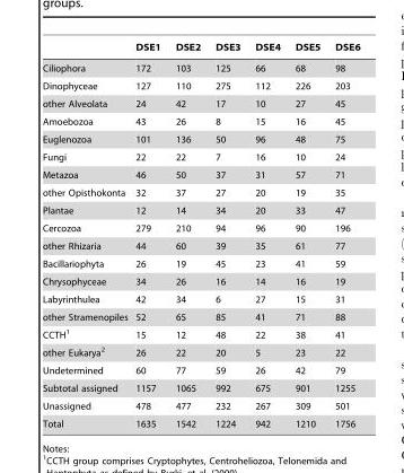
<table><thead><tr><td></td><td>DSE1</td><td>DSE2</td><td>DSE3</td><td>DSE4</td><td>DSE5</td><td>DSE6</td></tr></thead><tbody><tr><td>Ciliophora</td><td>172</td><td>103</td><td>125</td><td>66</td><td>68</td><td>98</td></tr><tr><td>Dinophyceae</td><td>127</td><td>110</td><td>275</td><td>112</td><td>226</td><td>203</td></tr><tr><td>other Alveolata</td><td>24</td><td>42</td><td>17</td><td>10</td><td>27</td><td>45</td></tr><tr><td>Amoebozoa</td><td>43</td><td>26</td><td>8</td><td>15</td><td>16</td><td>45</td></tr><tr><td>Euglenozoa</td><td>101</td><td>136</td><td>50</td><td>96</td><td>48</td><td>75</td></tr><tr><td>Fungi</td><td>22</td><td>22</td><td>7</td><td>16</td><td>10</td><td>24</td></tr><tr><td>Metazoa</td><td>46</td><td>50</td><td>37</td><td>31</td><td>57</td><td>71</td></tr><tr><td>other Opisthokonta</td><td>32</td><td>37</td><td>27</td><td>20</td><td>19</td><td>35</td></tr><tr><td>Plantae</td><td>12</td><td>14</td><td>34</td><td>20</td><td>33</td><td>47</td></tr><tr><td>Cercozoa</td><td>279</td><td>210</td><td>94</td><td>96</td><td>90</td><td>196</td></tr><tr><td>other Rhizaria</td><td>44</td><td>60</td><td>39</td><td>35</td><td>61</td><td>77</td></tr><tr><td>Bacillariophyta</td><td>26</td><td>19</td><td>45</td><td>23</td><td>41</td><td>59</td></tr><tr><td>Chrysophyceae</td><td>34</td><td>26</td><td>16</td><td>14</td><td>16</td><td>19</td></tr><tr><td>Labyrinthulea</td><td>42</td><td>34</td><td>6</td><td>27</td><td>15</td><td>31</td></tr><tr><td>other Stramenopiles</td><td>52</td><td>65</td><td>85</td><td>41</td><td>71</td><td>88</td></tr><tr><td>CCTH<sup>1</sup></td><td>15</td><td>12</td><td>48</td><td>22</td><td>38</td><td>41</td></tr><tr><td>other Eukarya<sup>2</sup></td><td>26</td><td>22</td><td>20</td><td>5</td><td>23</td><td>22</td></tr><tr><td>Undetermined</td><td>60</td><td>77</td><td>59</td><td>26</td><td>42</td><td>79</td></tr><tr><td>Subtotal assigned</td><td>1157</td><td>1065</td><td>992</td><td>675</td><td>901</td><td>1255</td></tr><tr><td>Unassigned</td><td>478</td><td>477</td><td>232</td><td>267</td><td>309</td><td>501</td></tr><tr><td>Total</td><td>1635</td><td>1542</td><td>1224</td><td>942</td><td>1210</td><td>1756</td></tr></tbody></table>